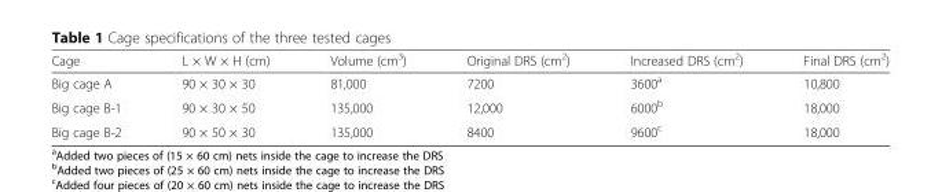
<table><thead><tr><td>Cage</td><td>L × W × H (cm)</td><td>Volume (cm<sup>3</sup>)</td><td>Original DRS (cm<sup>2</sup>)</td><td>Increased DRS (cm<sup>2</sup>)</td><td>Final DRS (cm<sup>2</sup>)</td></tr></thead><tbody><tr><td>Big cage A</td><td>90 × 30 × 30</td><td>81,000</td><td>7200</td><td>3600<sup>a</sup></td><td>10,800</td></tr><tr><td>Big cage B-1</td><td>90 × 30 × 50</td><td>135,000</td><td>12,000</td><td>6000<sup>b</sup></td><td>18,000</td></tr><tr><td>Big cage B-2</td><td>90 × 50 × 30</td><td>135,000</td><td>8400</td><td>9600<sup>c</sup></td><td>18,000</td></tr></tbody></table>